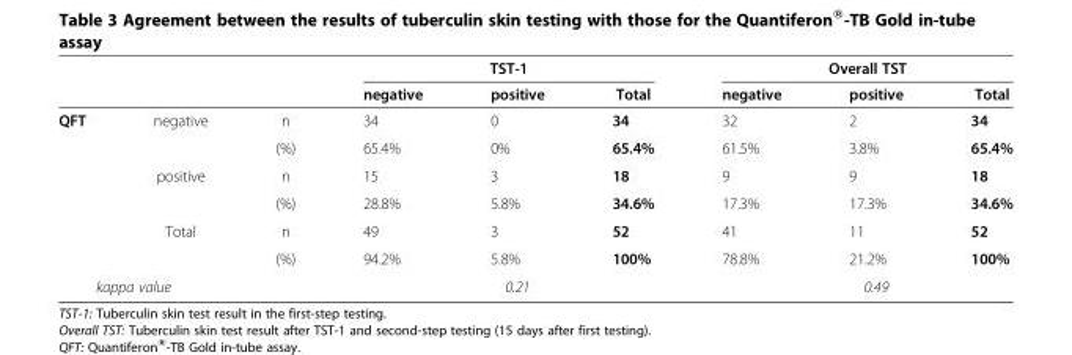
<table><thead><tr><td rowspan="2"></td><td rowspan="2"></td><td rowspan="2"></td><td colspan="3">TST-1</td><td colspan="3">Overall TST</td></tr><tr><td>negative</td><td>positive</td><td>Total</td><td>negative</td><td>positive</td><td>Total</td></tr></thead><tbody><tr><td rowspan="6">QFT</td><td>negative</td><td>n</td><td>34</td><td>0</td><td>34</td><td>32</td><td>2</td><td>34</td></tr><tr><td></td><td>(%)</td><td>65.4%</td><td>0%</td><td>65.4%</td><td>61.5%</td><td>3.8%</td><td>65.4%</td></tr><tr><td>positive</td><td>n</td><td>15</td><td>3</td><td>18</td><td>9</td><td>9</td><td>18</td></tr><tr><td></td><td>(%)</td><td>28.8%</td><td>5.8%</td><td>34.6%</td><td>17.3%</td><td>17.3%</td><td>34.6%</td></tr><tr><td>Total</td><td>n</td><td>49</td><td>3</td><td>52</td><td>41</td><td>11</td><td>52</td></tr><tr><td></td><td>(%)</td><td>94.2%</td><td>5.8%</td><td>100%</td><td>78.8%</td><td>21.2%</td><td>100%</td></tr><tr><td colspan="2">kappa value</td><td></td><td></td><td>0.21</td><td></td><td></td><td>0.49</td><td></td></tr></tbody></table>